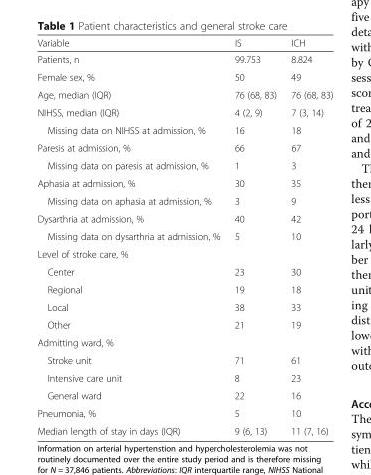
<table><thead><tr><td>Variable</td><td>IS</td><td>ICH</td></tr></thead><tbody><tr><td>Patients, n</td><td>99.753</td><td>8.824</td></tr><tr><td>Female sex, %</td><td>50</td><td>49</td></tr><tr><td>Age, median (IQR)</td><td>76 (68, 83)</td><td>76 (68, 83)</td></tr><tr><td>NIHSS, median (IQR)</td><td>4 (2, 9)</td><td>7 (3, 14)</td></tr><tr><td>Missing data on NIHSS at admission, %</td><td>16</td><td>18</td></tr><tr><td>Paresis at admission, %</td><td>66</td><td>67</td></tr><tr><td>Missing data on paresis at admission, %</td><td>1</td><td>3</td></tr><tr><td>Aphasia at admission, %</td><td>30</td><td>35</td></tr><tr><td>Missing data on aphasia at admission, %</td><td>3</td><td>9</td></tr><tr><td>Dysarthria at admission, %</td><td>40</td><td>42</td></tr><tr><td>Missing data on dysarthria at admission, %</td><td>5</td><td>10</td></tr><tr><td colspan="3">Level of stroke care, %</td></tr><tr><td>Center</td><td>23</td><td>30</td></tr><tr><td>Regional</td><td>19</td><td>18</td></tr><tr><td>Local</td><td>38</td><td>33</td></tr><tr><td>Other</td><td>21</td><td>19</td></tr><tr><td colspan="3">Admitting ward, %</td></tr><tr><td>Stroke unit</td><td>71</td><td>61</td></tr><tr><td>Intensive care unit</td><td>8</td><td>23</td></tr><tr><td>General ward</td><td>22</td><td>16</td></tr><tr><td>Pneumonia, %</td><td>5</td><td>10</td></tr><tr><td>Median length of stay in days (IQR)</td><td>9 (6, 13)</td><td>11 (7, 16)</td></tr></tbody></table>